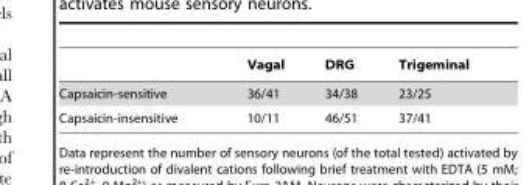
<table><thead><tr><td></td><td>Vagal</td><td>DRG</td><td>Trigeminal</td></tr></thead><tbody><tr><td>Capsaicin-sensitive</td><td>36/41</td><td>34/38</td><td>23/25</td></tr><tr><td>Capsaicin-insensitive</td><td>10/11</td><td>46/51</td><td>37/41</td></tr></tbody></table>